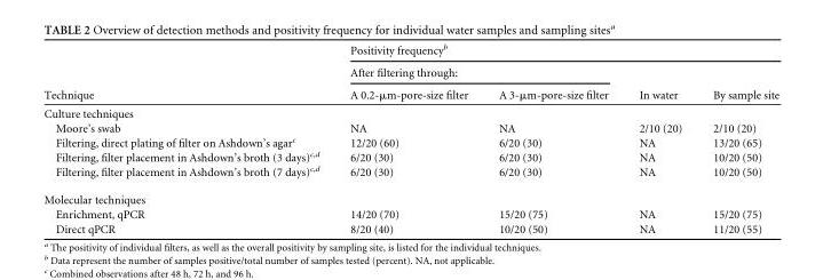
<table><thead><tr><td rowspan="3">Technique</td><td colspan="4">Positivity frequency<sup>b</sup></td></tr><tr><td colspan="2">After filtering through:</td><td rowspan="2">In water</td><td rowspan="2">By sample site</td></tr><tr><td>A 0.2-μm-pore-size filter</td><td>A 3-μm-pore-size filter</td></tr></thead><tbody><tr><td colspan="5">Culture techniques</td></tr><tr><td>Moore’s swab</td><td>NA</td><td>NA</td><td>2/10 (20)</td><td>2/10 (20)</td></tr><tr><td>Filtering, direct plating of filter on Ashdown’s agar<sup>c</sup></td><td>12/20 (60)</td><td>6/20 (30)</td><td>NA</td><td>13/20 (65)</td></tr><tr><td>Filtering, filter placement in Ashdown’s broth (3 days)<sup>c,d</sup></td><td>6/20 (30)</td><td>6/20 (30)</td><td>NA</td><td>10/20 (50)</td></tr><tr><td>Filtering, filter placement in Ashdown’s broth (7 days)<sup>c,d</sup></td><td>6/20 (30)</td><td>6/20 (30)</td><td>NA</td><td>10/20 (50)</td></tr><tr><td colspan="5">Molecular techniques</td></tr><tr><td>Enrichment, qPCR</td><td>14/20 (70)</td><td>15/20 (75)</td><td>NA</td><td>15/20 (75)</td></tr><tr><td>Direct qPCR</td><td>8/20 (40)</td><td>10/20 (50)</td><td>NA</td><td>11/20 (55)</td></tr></tbody></table>